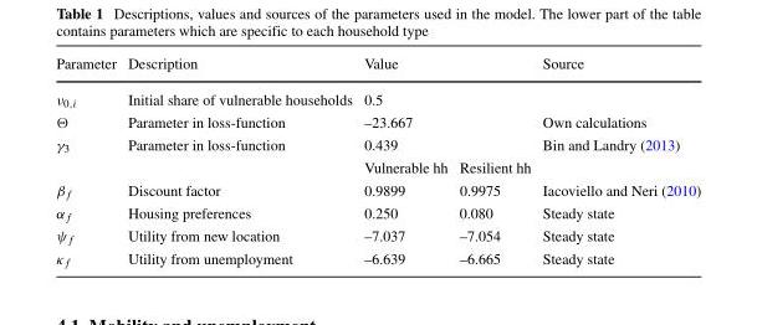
<table><thead><tr><td>Parameter</td><td>Description</td><td>Value</td><td></td><td>Source</td></tr></thead><tbody><tr><td>ν<sub>0,i</sub></td><td>Initial share of vulnerable households</td><td>0.5</td><td></td><td></td></tr><tr><td>Θ</td><td>Parameter in loss-function</td><td>–23.667</td><td></td><td>Own calculations</td></tr><tr><td rowspan="2">γ<sub>3</sub></td><td>Parameter in loss-function</td><td>0.439</td><td></td><td>Bin and Landry (2013)</td></tr><tr><td></td><td>Vulnerable hh</td><td>Resilient hh</td><td></td></tr><tr><td>β<sub>f</sub></td><td>Discount factor</td><td>0.9899</td><td>0.9975</td><td>Iacoviello and Neri (2010)</td></tr><tr><td>α<sub>f</sub></td><td>Housing preferences</td><td>0.250</td><td>0.080</td><td>Steady state</td></tr><tr><td>ψ<sub>f</sub></td><td>Utility from new location</td><td>–7.037</td><td>–7.054</td><td>Steady state</td></tr><tr><td>κ<sub>f</sub></td><td>Utility from unemployment</td><td>–6.639</td><td>–6.665</td><td>Steady state</td></tr></tbody></table>